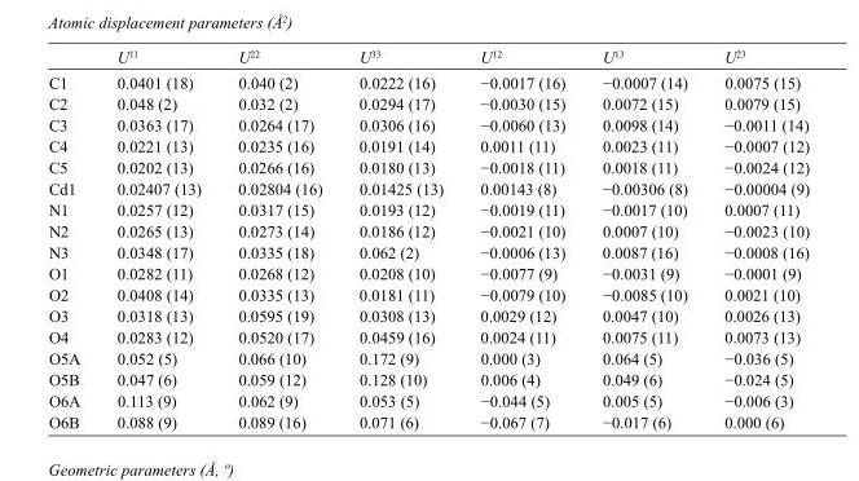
<table><thead><tr><td></td><td>U<sup>11</sup></td><td>U<sup>22</sup></td><td>U<sup>33</sup></td><td>U<sup>12</sup></td><td>U<sup>13</sup></td><td>U<sup>23</sup></td></tr></thead><tbody><tr><td>C1</td><td>0.0401 (18)</td><td>0.040 (2)</td><td>0.0222 (16)</td><td>−0.0017 (16)</td><td>−0.0007 (14)</td><td>0.0075 (15)</td></tr><tr><td>C2</td><td>0.048 (2)</td><td>0.032 (2)</td><td>0.0294 (17)</td><td>−0.0030 (15)</td><td>0.0072 (15)</td><td>0.0079 (15)</td></tr><tr><td>C3</td><td>0.0363 (17)</td><td>0.0264 (17)</td><td>0.0306 (16)</td><td>−0.0060 (13)</td><td>0.0098 (14)</td><td>−0.0011 (14)</td></tr><tr><td>C4</td><td>0.0221 (13)</td><td>0.0235 (16)</td><td>0.0191 (14)</td><td>0.0011 (11)</td><td>0.0023 (11)</td><td>−0.0007 (12)</td></tr><tr><td>C5</td><td>0.0202 (13)</td><td>0.0266 (16)</td><td>0.0180 (13)</td><td>−0.0018 (11)</td><td>0.0018 (11)</td><td>−0.0024 (12)</td></tr><tr><td>Cd1</td><td>0.02407 (13)</td><td>0.02804 (16)</td><td>0.01425 (13)</td><td>0.00143 (8)</td><td>−0.00306 (8)</td><td>−0.00004 (9)</td></tr><tr><td>N1</td><td>0.0257 (12)</td><td>0.0317 (15)</td><td>0.0193 (12)</td><td>−0.0019 (11)</td><td>−0.0017 (10)</td><td>0.0007 (11)</td></tr><tr><td>N2</td><td>0.0265 (13)</td><td>0.0273 (14)</td><td>0.0186 (12)</td><td>−0.0021 (10)</td><td>0.0007 (10)</td><td>−0.0023 (10)</td></tr><tr><td>N3</td><td>0.0348 (17)</td><td>0.0335 (18)</td><td>0.062 (2)</td><td>−0.0006 (13)</td><td>0.0087 (16)</td><td>−0.0008 (16)</td></tr><tr><td>O1</td><td>0.0282 (11)</td><td>0.0268 (12)</td><td>0.0208 (10)</td><td>−0.0077 (9)</td><td>−0.0031 (9)</td><td>−0.0001 (9)</td></tr><tr><td>O2</td><td>0.0408 (14)</td><td>0.0335 (13)</td><td>0.0181 (11)</td><td>−0.0079 (10)</td><td>−0.0085 (10)</td><td>0.0021 (10)</td></tr><tr><td>O3</td><td>0.0318 (13)</td><td>0.0595 (19)</td><td>0.0308 (13)</td><td>0.0029 (12)</td><td>0.0047 (10)</td><td>0.0026 (13)</td></tr><tr><td>O4</td><td>0.0283 (12)</td><td>0.0520 (17)</td><td>0.0459 (16)</td><td>0.0024 (11)</td><td>0.0075 (11)</td><td>0.0073 (13)</td></tr><tr><td>O5A</td><td>0.052 (5)</td><td>0.066 (10)</td><td>0.172 (9)</td><td>0.000 (3)</td><td>0.064 (5)</td><td>−0.036 (5)</td></tr><tr><td>O5B</td><td>0.047 (6)</td><td>0.059 (12)</td><td>0.128 (10)</td><td>0.006 (4)</td><td>0.049 (6)</td><td>−0.024 (5)</td></tr><tr><td>O6A</td><td>0.113 (9)</td><td>0.062 (9)</td><td>0.053 (5)</td><td>−0.044 (5)</td><td>0.005 (5)</td><td>−0.006 (3)</td></tr><tr><td>O6B</td><td>0.088 (9)</td><td>0.089 (16)</td><td>0.071 (6)</td><td>−0.067 (7)</td><td>−0.017 (6)</td><td>0.000 (6)</td></tr></tbody></table>